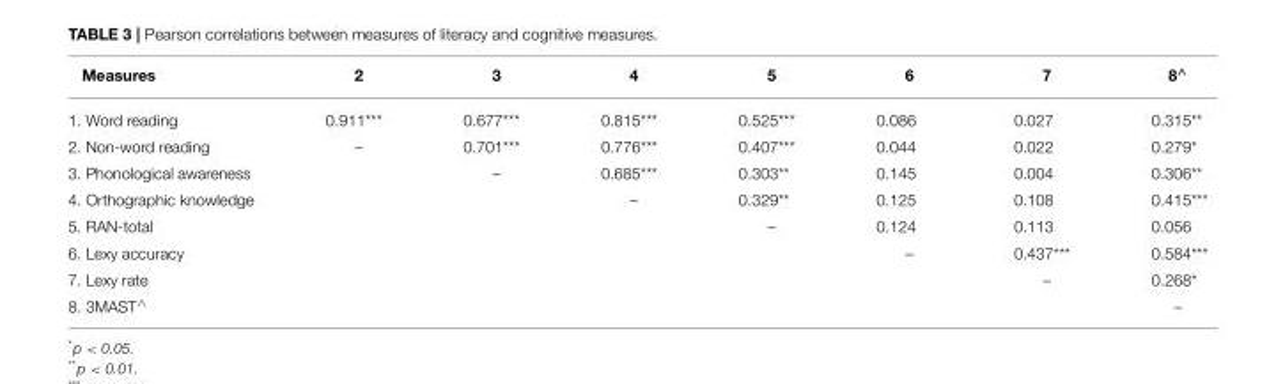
<table><thead><tr><td>Measures</td><td>2</td><td>3</td><td>4</td><td>5</td><td>6</td><td>7</td><td>8<sup>∧</sup></td></tr></thead><tbody><tr><td>1. Word reading</td><td>0.911***</td><td>0.677***</td><td>0.815***</td><td>0.525***</td><td>0.086</td><td>0.027</td><td>0.315**</td></tr><tr><td>2. Non-word reading</td><td>–</td><td>0.701***</td><td>0.776***</td><td>0.407***</td><td>0.044</td><td>0.022</td><td>0.279*</td></tr><tr><td>3. Phonological awareness</td><td></td><td>–</td><td>0.685***</td><td>0.303**</td><td>0.145</td><td>0.004</td><td>0.306**</td></tr><tr><td>4. Orthographic knowledge</td><td></td><td></td><td>–</td><td>0.329**</td><td>0.125</td><td>0.108</td><td>0.415***</td></tr><tr><td>5. RAN-total</td><td></td><td></td><td></td><td>–</td><td>0.124</td><td>0.113</td><td>0.056</td></tr><tr><td>6. Lexy accuracy</td><td></td><td></td><td></td><td></td><td>–</td><td>0.437***</td><td>0.584***</td></tr><tr><td>7. Lexy rate</td><td></td><td></td><td></td><td></td><td></td><td>–</td><td>0.268*</td></tr><tr><td>8. 3MAST<sup>∧</sup></td><td></td><td></td><td></td><td></td><td></td><td></td><td>–</td></tr></tbody></table>